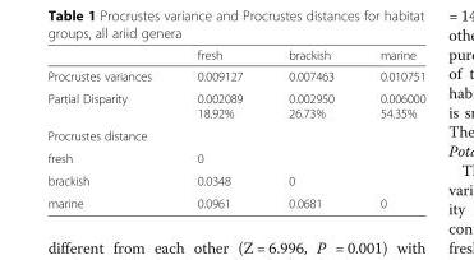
<table><thead><tr><td></td><td>fresh</td><td>brackish</td><td>marine</td></tr></thead><tbody><tr><td>Procrustes variances</td><td>0.009127</td><td>0.007463</td><td>0.010751</td></tr><tr><td>Partial Disparity</td><td>0.002089 18.92%</td><td>0.002950 26.73%</td><td>0.006000 54.35%</td></tr><tr><td colspan="4">Procrustes distance</td></tr><tr><td>fresh</td><td>0</td><td></td><td></td></tr><tr><td>brackish</td><td>0.0348</td><td>0</td><td></td></tr><tr><td>marine</td><td>0.0961</td><td>0.0681</td><td>0</td></tr></tbody></table>